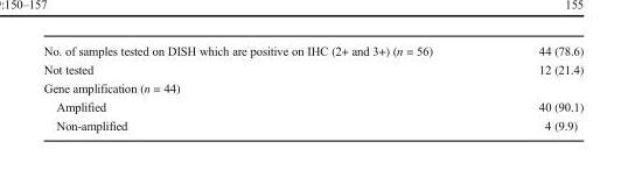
<table><tbody><tr><td>No. of samples tested on DISH which are positive on IHC (2+ and 3+) (n = 56)</td><td>44 (78.6)</td></tr><tr><td>Not tested</td><td>12 (21.4)</td></tr><tr><td colspan="2">Gene amplification (n = 44)</td></tr><tr><td>Amplified</td><td>40 (90.1)</td></tr><tr><td>Non-amplified</td><td>4 (9.9)</td></tr></tbody></table>